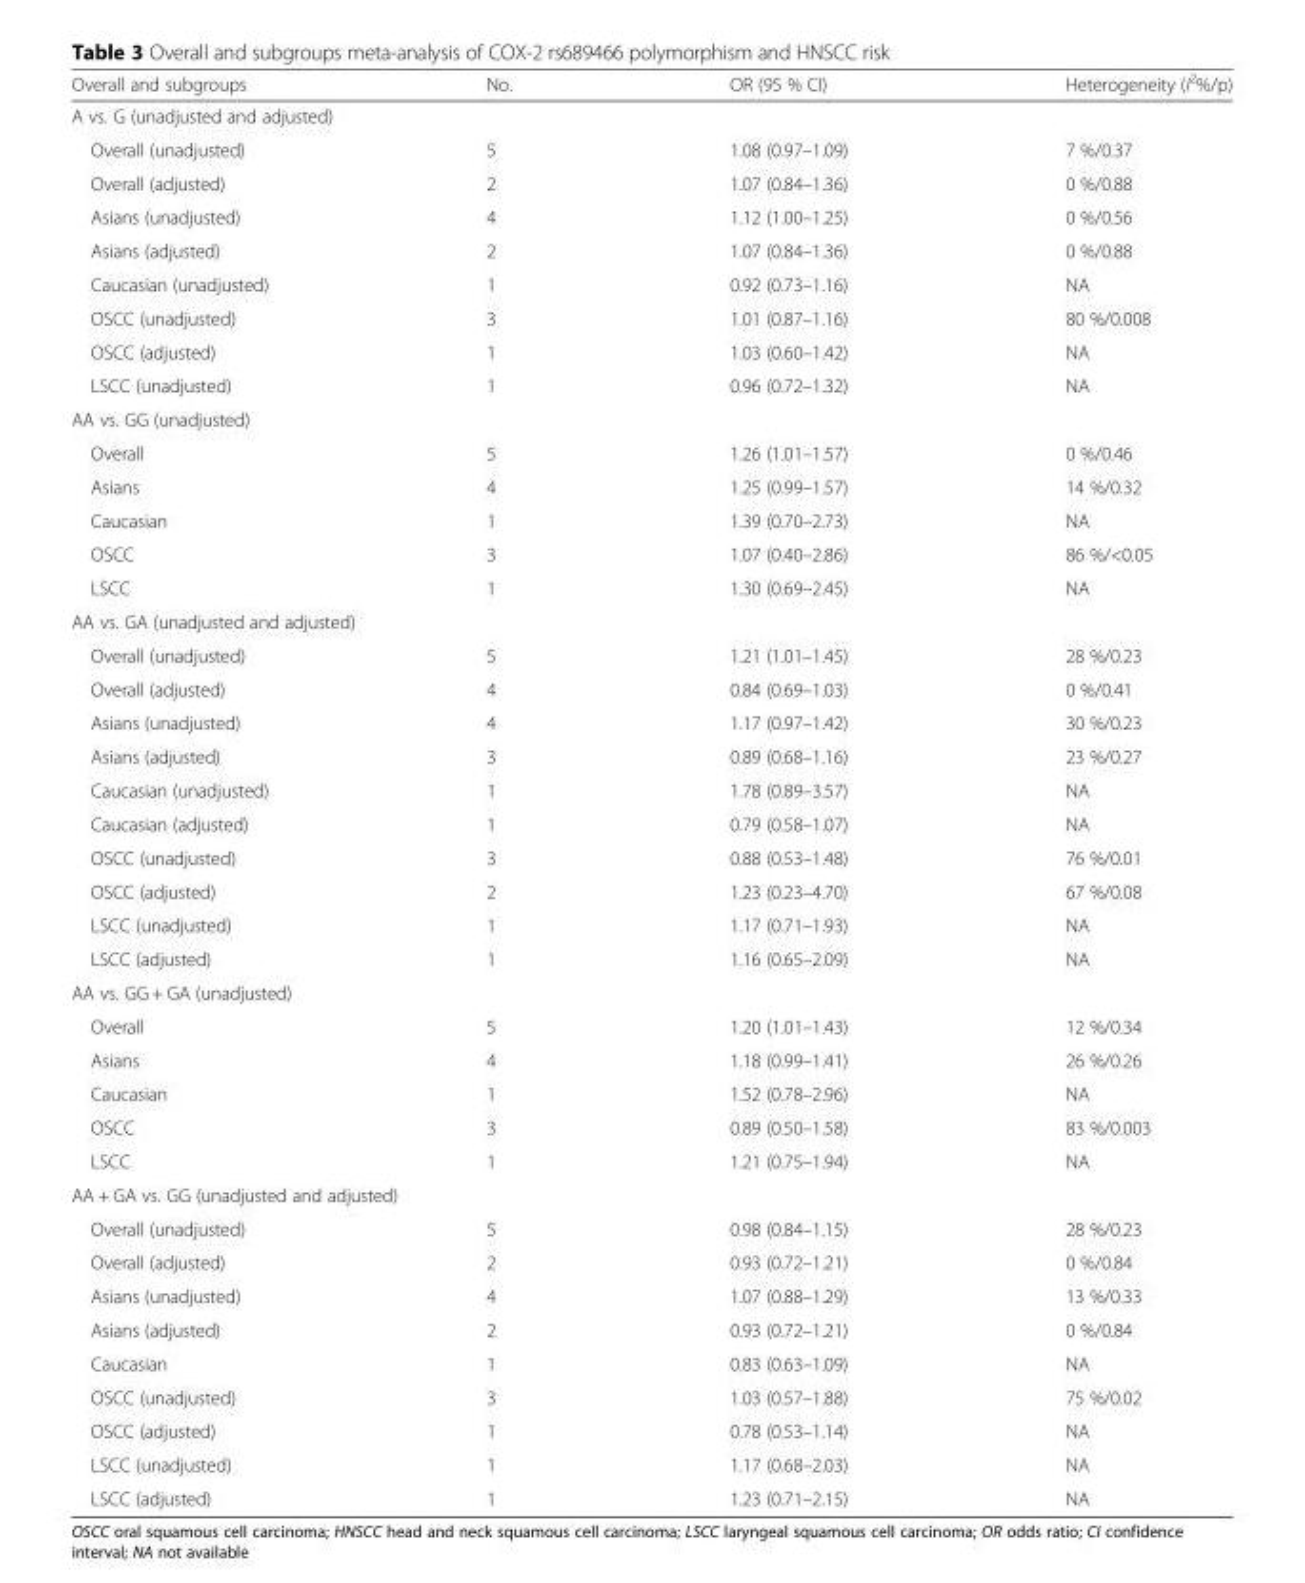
<table><thead><tr><td>Overall and subgroups</td><td>No.</td><td>OR (95 % CI)</td><td>Heterogeneity (I<sup>2</sup>%/p)</td></tr></thead><tbody><tr><td colspan="4">A vs. G (unadjusted and adjusted)</td></tr><tr><td>Overall (unadjusted)</td><td>5</td><td>1.08 (0.97–1.09)</td><td>7 %/0.37</td></tr><tr><td>Overall (adjusted)</td><td>2</td><td>1.07 (0.84–1.36)</td><td>0 %/0.88</td></tr><tr><td>Asians (unadjusted)</td><td>4</td><td>1.12 (1.00–1.25)</td><td>0 %/0.56</td></tr><tr><td>Asians (adjusted)</td><td>2</td><td>1.07 (0.84–1.36)</td><td>0 %/0.88</td></tr><tr><td>Caucasian (unadjusted)</td><td>1</td><td>0.92 (0.73–1.16)</td><td>NA</td></tr><tr><td>OSCC (unadjusted)</td><td>3</td><td>1.01 (0.87–1.16)</td><td>80 %/0.008</td></tr><tr><td>OSCC (adjusted)</td><td>1</td><td>1.03 (0.60–1.42)</td><td>NA</td></tr><tr><td>LSCC (unadjusted)</td><td>1</td><td>0.96 (0.72–1.32)</td><td>NA</td></tr><tr><td colspan="4">AA vs. GG (unadjusted)</td></tr><tr><td>Overall</td><td>5</td><td>1.26 (1.01–1.57)</td><td>0 %/0.46</td></tr><tr><td>Asians</td><td>4</td><td>1.25 (0.99–1.57)</td><td>14 %/0.32</td></tr><tr><td>Caucasian</td><td>1</td><td>1.39 (0.70–2.73)</td><td>NA</td></tr><tr><td>OSCC</td><td>3</td><td>1.07 (0.40–2.86)</td><td>86 %/&lt;0.05</td></tr><tr><td>LSCC</td><td>1</td><td>1.30 (0.69–2.45)</td><td>NA</td></tr><tr><td colspan="4">AA vs. GA (unadjusted and adjusted)</td></tr><tr><td>Overall (unadjusted)</td><td>5</td><td>1.21 (1.01–1.45)</td><td>28 %/0.23</td></tr><tr><td>Overall (adjusted)</td><td>4</td><td>0.84 (0.69–1.03)</td><td>0 %/0.41</td></tr><tr><td>Asians (unadjusted)</td><td>4</td><td>1.17 (0.97–1.42)</td><td>30 %/0.23</td></tr><tr><td>Asians (adjusted)</td><td>3</td><td>0.89 (0.68–1.16)</td><td>23 %/0.27</td></tr><tr><td>Caucasian (unadjusted)</td><td>1</td><td>1.78 (0.89–3.57)</td><td>NA</td></tr><tr><td>Caucasian (adjusted)</td><td>1</td><td>0.79 (0.58–1.07)</td><td>NA</td></tr><tr><td>OSCC (unadjusted)</td><td>3</td><td>0.88 (0.53–1.48)</td><td>76 %/0.01</td></tr><tr><td>OSCC (adjusted)</td><td>2</td><td>1.23 (0.23–4.70)</td><td>67 %/0.08</td></tr><tr><td>LSCC (unadjusted)</td><td>1</td><td>1.17 (0.71–1.93)</td><td>NA</td></tr><tr><td>LSCC (adjusted)</td><td>1</td><td>1.16 (0.65–2.09)</td><td>NA</td></tr><tr><td colspan="4">AA vs. GG + GA (unadjusted)</td></tr><tr><td>Overall</td><td>5</td><td>1.20 (1.01–1.43)</td><td>12 %/0.34</td></tr><tr><td>Asians</td><td>4</td><td>1.18 (0.99–1.41)</td><td>26 %/0.26</td></tr><tr><td>Caucasian</td><td>1</td><td>1.52 (0.78–2.96)</td><td>NA</td></tr><tr><td>OSCC</td><td>3</td><td>0.89 (0.50–1.58)</td><td>83 %/0.003</td></tr><tr><td>LSCC</td><td>1</td><td>1.21 (0.75–1.94)</td><td>NA</td></tr><tr><td colspan="4">AA + GA vs. GG (unadjusted and adjusted)</td></tr><tr><td>Overall (unadjusted)</td><td>5</td><td>0.98 (0.84–1.15)</td><td>28 %/0.23</td></tr><tr><td>Overall (adjusted)</td><td>2</td><td>0.93 (0.72–1.21)</td><td>0 %/0.84</td></tr><tr><td>Asians (unadjusted)</td><td>4</td><td>1.07 (0.88–1.29)</td><td>13 %/0.33</td></tr><tr><td>Asians (adjusted)</td><td>2</td><td>0.93 (0.72–1.21)</td><td>0 %/0.84</td></tr><tr><td>Caucasian</td><td>1</td><td>0.83 (0.63–1.09)</td><td>NA</td></tr><tr><td>OSCC (unadjusted)</td><td>3</td><td>1.03 (0.57–1.88)</td><td>75 %/0.02</td></tr><tr><td>OSCC (adjusted)</td><td>1</td><td>0.78 (0.53–1.14)</td><td>NA</td></tr><tr><td>LSCC (unadjusted)</td><td>1</td><td>1.17 (0.68–2.03)</td><td>NA</td></tr><tr><td>LSCC (adjusted)</td><td>1</td><td>1.23 (0.71–2.15)</td><td>NA</td></tr></tbody></table>